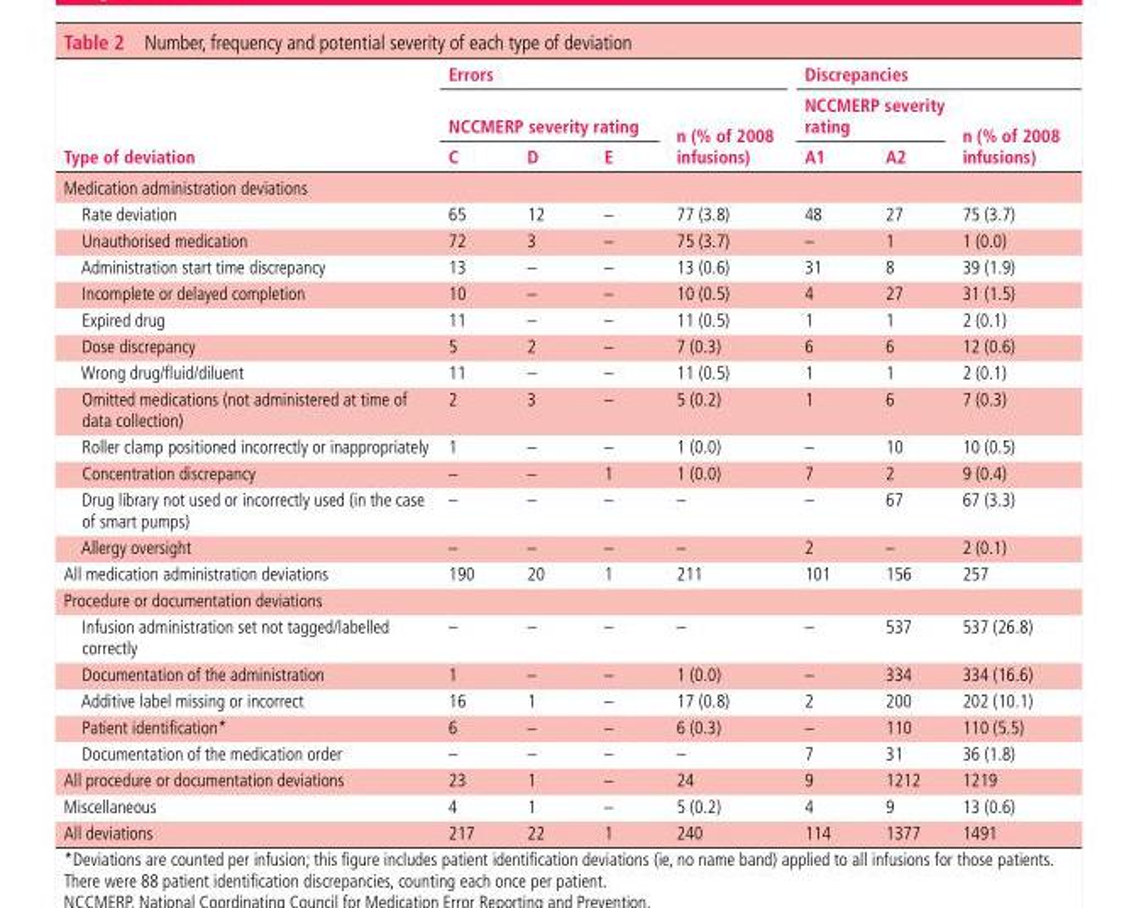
<table><thead><tr><td rowspan="3">Type of deviation</td><td colspan="4">Errors</td><td colspan="3">Discrepancies</td></tr><tr><td colspan="3">NCCMERP severity rating</td><td rowspan="2">n (% of 2008 infusions)</td><td colspan="2">NCCMERP severity rating</td><td rowspan="2">n (% of 2008 infusions)</td></tr><tr><td>C</td><td>D</td><td>E</td><td>A1</td><td>A2</td></tr></thead><tbody><tr><td colspan="8">Medication administration deviations</td></tr><tr><td>Rate deviation</td><td>65</td><td>12</td><td>–</td><td>77 (3.8)</td><td>48</td><td>27</td><td>75 (3.7)</td></tr><tr><td>Unauthorised medication</td><td>72</td><td>3</td><td>–</td><td>75 (3.7)</td><td>–</td><td>1</td><td>1 (0.0)</td></tr><tr><td>Administration start time discrepancy</td><td>13</td><td>–</td><td>–</td><td>13 (0.6)</td><td>31</td><td>8</td><td>39 (1.9)</td></tr><tr><td>Incomplete or delayed completion</td><td>10</td><td>–</td><td>–</td><td>10 (0.5)</td><td>4</td><td>27</td><td>31 (1.5)</td></tr><tr><td>Expired drug</td><td>11</td><td>–</td><td>–</td><td>11 (0.5)</td><td>1</td><td>1</td><td>2 (0.1)</td></tr><tr><td>Dose discrepancy</td><td>5</td><td>2</td><td>–</td><td>7 (0.3)</td><td>6</td><td>6</td><td>12 (0.6)</td></tr><tr><td>Wrong drug/fluid/diluent</td><td>11</td><td>–</td><td>–</td><td>11 (0.5)</td><td>1</td><td>1</td><td>2 (0.1)</td></tr><tr><td>Omitted medications (not administered at time of data collection)</td><td>2</td><td>3</td><td>–</td><td>5 (0.2)</td><td>1</td><td>6</td><td>7 (0.3)</td></tr><tr><td>Roller clamp positioned incorrectly or inappropriately</td><td>1</td><td>–</td><td>–</td><td>1 (0.0)</td><td>–</td><td>10</td><td>10 (0.5)</td></tr><tr><td>Concentration discrepancy</td><td>–</td><td>–</td><td>1</td><td>1 (0.0)</td><td>7</td><td>2</td><td>9 (0.4)</td></tr><tr><td>Drug library not used or incorrectly used (in the case of smart pumps)</td><td>–</td><td>–</td><td>–</td><td>–</td><td>–</td><td>67</td><td>67 (3.3)</td></tr><tr><td>Allergy oversight</td><td>–</td><td>–</td><td>–</td><td>–</td><td>2</td><td>–</td><td>2 (0.1)</td></tr><tr><td>All medication administration deviations</td><td>190</td><td>20</td><td>1</td><td>211</td><td>101</td><td>156</td><td>257</td></tr><tr><td colspan="8">Procedure or documentation deviations</td></tr><tr><td>Infusion administration set not tagged/labelled correctly</td><td>–</td><td>–</td><td>–</td><td>–</td><td>–</td><td>537</td><td>537 (26.8)</td></tr><tr><td>Documentation of the administration</td><td>1</td><td>–</td><td>–</td><td>1 (0.0)</td><td>–</td><td>334</td><td>334 (16.6)</td></tr><tr><td>Additive label missing or incorrect</td><td>16</td><td>1</td><td>–</td><td>17 (0.8)</td><td>2</td><td>200</td><td>202 (10.1)</td></tr><tr><td>Patient identification*</td><td>6</td><td>–</td><td>–</td><td>6 (0.3)</td><td>–</td><td>110</td><td>110 (5.5)</td></tr><tr><td>Documentation of the medication order</td><td>–</td><td>–</td><td>–</td><td>–</td><td>7</td><td>31</td><td>36 (1.8)</td></tr><tr><td>All procedure or documentation deviations</td><td>23</td><td>1</td><td>–</td><td>24</td><td>9</td><td>1212</td><td>1219</td></tr><tr><td>Miscellaneous</td><td>4</td><td>1</td><td>–</td><td>5 (0.2)</td><td>4</td><td>9</td><td>13 (0.6)</td></tr><tr><td>All deviations</td><td>217</td><td>22</td><td>1</td><td>240</td><td>114</td><td>1377</td><td>1491</td></tr></tbody></table>